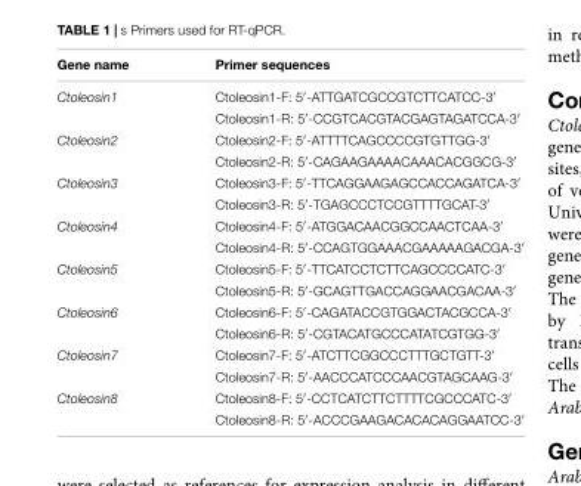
<table><thead><tr><td>Gene name</td><td>Primer sequences</td></tr></thead><tbody><tr><td rowspan="2">Ctoleosin1</td><td>Ctoleosin1-F: 5′-ATTGATCGCCGTCTTCATCC-3′</td></tr><tr><td>Ctoleosin1-R: 5′-CCGTCACGTACGAGTAGATCCA-3′</td></tr><tr><td rowspan="2">Ctoleosin2</td><td>Ctoleosin2-F: 5′-ATTTTCAGCCCCGTGTTGG-3′</td></tr><tr><td>Ctoleosin2-R: 5′-CAGAAGAAAACAAACACGGCG-3′</td></tr><tr><td rowspan="2">Ctoleosin3</td><td>Ctoleosin3-F: 5′-TTCAGGAAGAGCCACCAGATCA-3′</td></tr><tr><td>Ctoleosin3-R: 5′-TGAGCCCTCCGTTTTGCAT-3′</td></tr><tr><td rowspan="2">Ctoleosin4</td><td>Ctoleosin4-F: 5′-ATGGACAACGGCCAACTCAA-3′</td></tr><tr><td>Ctoleosin4-R: 5′-CCAGTGGAAACGAAAAAGACGA-3′</td></tr><tr><td rowspan="2">Ctoleosin5</td><td>Ctoleosin5-F: 5′-TTCATCCTCTTCAGCCCCATC-3′</td></tr><tr><td>Ctoleosin5-R: 5′-GCAGTTGACCAGGAACGACAA-3′</td></tr><tr><td rowspan="2">Ctoleosin6</td><td>Ctoleosin6-F: 5′-CAGATACCGTGGACTACGCCA-3′</td></tr><tr><td>Ctoleosin6-R: 5′-CGTACATGCCCATATCGTGG-3′</td></tr><tr><td rowspan="2">Ctoleosin7</td><td>Ctoleosin7-F: 5′-ATCTTCGGCCCTTTGCTGTT-3′</td></tr><tr><td>Ctoleosin7-R: 5′-AACCCATCCCAACGTAGCAAG-3′</td></tr><tr><td rowspan="2">Ctoleosin8</td><td>Ctoleosin8-F: 5′-CCTCATCTTCTTTTCGCCCATC-3′</td></tr><tr><td>Ctoleosin8-R: 5′-ACCCGAAGACACACAGGAATCC-3′</td></tr></tbody></table>